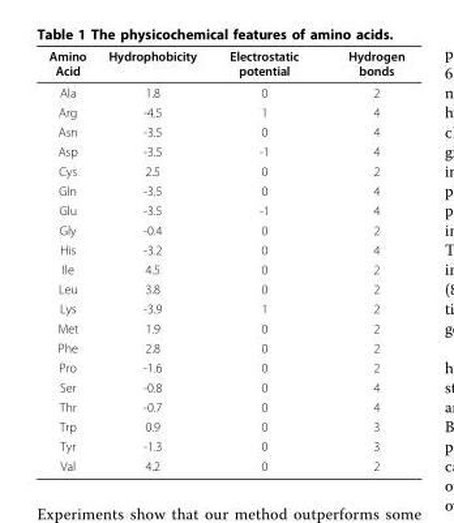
<table><thead><tr><td>Amino Acid</td><td>Hydrophobicity</td><td>Electrostatic potential</td><td>Hydrogen bonds</td></tr></thead><tbody><tr><td>Ala</td><td>1.8</td><td>0</td><td>2</td></tr><tr><td>Arg</td><td>-4.5</td><td>1</td><td>4</td></tr><tr><td>Asn</td><td>-3.5</td><td>0</td><td>4</td></tr><tr><td>Asp</td><td>-3.5</td><td>-1</td><td>4</td></tr><tr><td>Cys</td><td>2.5</td><td>0</td><td>2</td></tr><tr><td>Gln</td><td>-3.5</td><td>0</td><td>4</td></tr><tr><td>Glu</td><td>-3.5</td><td>-1</td><td>4</td></tr><tr><td>Gly</td><td>-0.4</td><td>0</td><td>2</td></tr><tr><td>His</td><td>-3.2</td><td>0</td><td>4</td></tr><tr><td>Ile</td><td>4.5</td><td>0</td><td>2</td></tr><tr><td>Leu</td><td>3.8</td><td>0</td><td>2</td></tr><tr><td>Lys</td><td>-3.9</td><td>1</td><td>2</td></tr><tr><td>Met</td><td>1.9</td><td>0</td><td>2</td></tr><tr><td>Phe</td><td>2.8</td><td>0</td><td>2</td></tr><tr><td>Pro</td><td>-1.6</td><td>0</td><td>2</td></tr><tr><td>Ser</td><td>-0.8</td><td>0</td><td>4</td></tr><tr><td>Thr</td><td>-0.7</td><td>0</td><td>4</td></tr><tr><td>Trp</td><td>0.9</td><td>0</td><td>3</td></tr><tr><td>Tyr</td><td>-1.3</td><td>0</td><td>3</td></tr><tr><td>Val</td><td>4.2</td><td>0</td><td>2</td></tr></tbody></table>